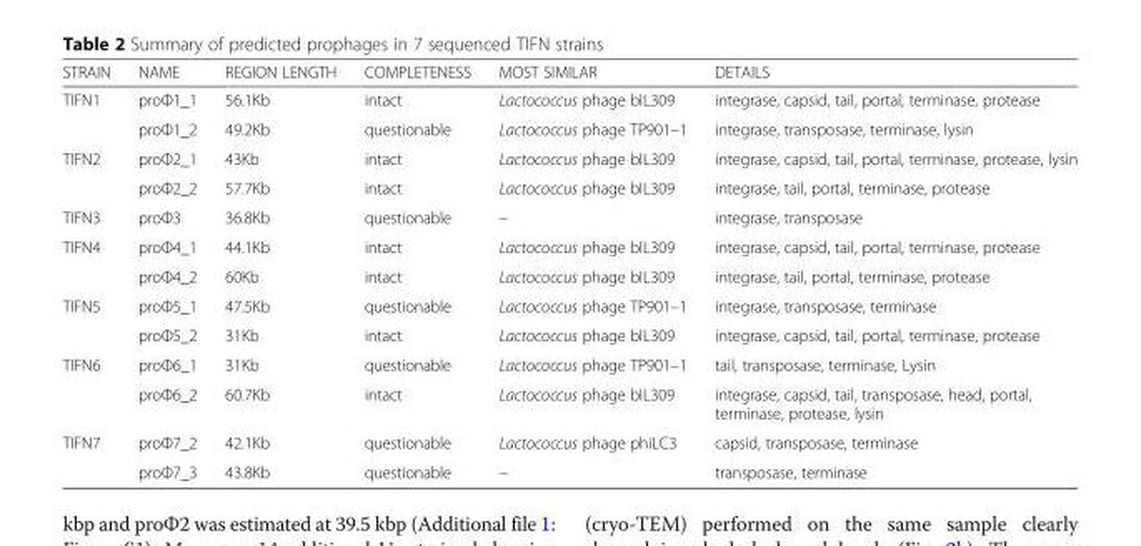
<table><thead><tr><td>STRAIN</td><td>NAME</td><td>REGION LENGTH</td><td>COMPLETENESS</td><td>MOST SIMILAR</td><td>DETAILS</td></tr></thead><tbody><tr><td rowspan="2">TIFN1</td><td>proΦ1_1</td><td>56.1Kb</td><td>intact</td><td>Lactococcus phage bIL309</td><td>integrase, capsid, tail, portal, terminase, protease</td></tr><tr><td>proΦ1_2</td><td>49.2Kb</td><td>questionable</td><td>Lactococcus phage TP901–1</td><td>integrase, transposase, terminase, lysin</td></tr><tr><td rowspan="2">TIFN2</td><td>proΦ2_1</td><td>43Kb</td><td>intact</td><td>Lactococcus phage bIL309</td><td>integrase, capsid, tail, portal, terminase, protease, lysin</td></tr><tr><td>proΦ2_2</td><td>57.7Kb</td><td>intact</td><td>Lactococcus phage bIL309</td><td>integrase, tail, portal, terminase, protease</td></tr><tr><td>TIFN3</td><td>proΦ3</td><td>36.8Kb</td><td>questionable</td><td>–</td><td>integrase, transposase</td></tr><tr><td rowspan="2">TIFN4</td><td>proΦ4_1</td><td>44.1Kb</td><td>intact</td><td>Lactococcus phage bIL309</td><td>integrase, capsid, tail, portal, terminase, protease</td></tr><tr><td>proΦ4_2</td><td>60Kb</td><td>intact</td><td>Lactococcus phage bIL309</td><td>integrase, tail, portal, terminase, protease</td></tr><tr><td rowspan="2">TIFN5</td><td>proΦ5_1</td><td>47.5Kb</td><td>questionable</td><td>Lactococcus phage TP901–1</td><td>integrase, transposase, terminase</td></tr><tr><td>proΦ5_2</td><td>31Kb</td><td>intact</td><td>Lactococcus phage bIL309</td><td>integrase, capsid, tail, portal, terminase, protease</td></tr><tr><td rowspan="2">TIFN6</td><td>proΦ6_1</td><td>31Kb</td><td>questionable</td><td>Lactococcus phage TP901–1</td><td>tail, transposase, terminase, Lysin</td></tr><tr><td>proΦ6_2</td><td>60.7Kb</td><td>intact</td><td>Lactococcus phage bIL309</td><td>integrase, capsid, tail, transposase, head, portal, terminase, protease, lysin</td></tr><tr><td rowspan="2">TIFN7</td><td>proΦ7_2</td><td>42.1Kb</td><td>questionable</td><td>Lactococcus phage phiLC3</td><td>capsid, transposase, terminase</td></tr><tr><td>proΦ7_3</td><td>43.8Kb</td><td>questionable</td><td>–</td><td>transposase, terminase</td></tr></tbody></table>